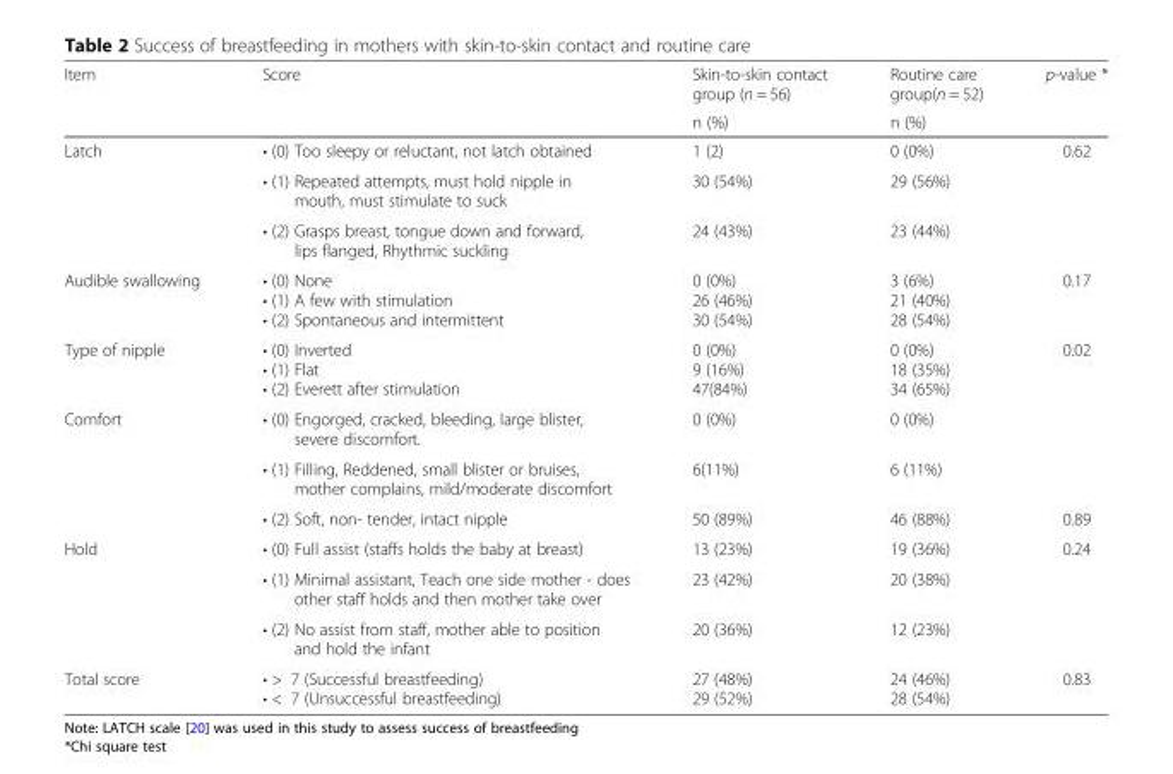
<table><thead><tr><td rowspan="2">Item</td><td rowspan="2">Score</td><td rowspan="2">Skin-to-skin contact group (n = 56) n (%)</td><td rowspan="2">Routine care group(n = 52) n (%)</td><td rowspan="2">p-value *</td></tr><tr></tr></thead><tbody><tr><td rowspan="3">Latch</td><td>• (0) Too sleepy or reluctant, not latch obtained</td><td>1 (2)</td><td>0 (0%)</td><td>0.62</td></tr><tr><td>• (1) Repeated attempts, must hold nipple in mouth, must stimulate to suck</td><td>30 (54%)</td><td>29 (56%)</td><td></td></tr><tr><td>• (2) Grasps breast, tongue down and forward, lips flanged, Rhythmic suckling</td><td>24 (43%)</td><td>23 (44%)</td><td></td></tr><tr><td>Audible swallowing</td><td>• (0) None • (1) A few with stimulation • (2) Spontaneous and intermittent</td><td>0 (0%) 26 (46%) 30 (54%)</td><td>3 (6%) 21 (40%) 28 (54%)</td><td>0.17</td></tr><tr><td>Type of nipple</td><td>• (0) Inverted • (1) Flat • (2) Everett after stimulation</td><td>0 (0%) 9 (16%) 47(84%)</td><td>0 (0%) 18 (35%) 34 (65%)</td><td>0.02</td></tr><tr><td rowspan="3">Comfort</td><td>• (0) Engorged, cracked, bleeding, large blister, severe discomfort.</td><td>0 (0%)</td><td>0 (0%)</td><td></td></tr><tr><td>• (1) Filling, Reddened, small blister or bruises, mother complains, mild/moderate discomfort</td><td>6(11%)</td><td>6 (11%)</td><td></td></tr><tr><td>• (2) Soft, non- tender, intact nipple</td><td>50 (89%)</td><td>46 (88%)</td><td>0.89</td></tr><tr><td rowspan="3">Hold</td><td>• (0) Full assist (staffs holds the baby at breast)</td><td>13 (23%)</td><td>19 (36%)</td><td>0.24</td></tr><tr><td>• (1) Minimal assistant, Teach one side mother - does other staff holds and then mother take over</td><td>23 (42%)</td><td>20 (38%)</td><td></td></tr><tr><td>• (2) No assist from staff, mother able to position and hold the infant</td><td>20 (36%)</td><td>12 (23%)</td><td></td></tr><tr><td>Total score</td><td>• &gt; 7 (Successful breastfeeding) • &lt; 7 (Unsuccessful breastfeeding)</td><td>27 (48%) 29 (52%)</td><td>24 (46%) 28 (54%)</td><td>0.83</td></tr></tbody></table>